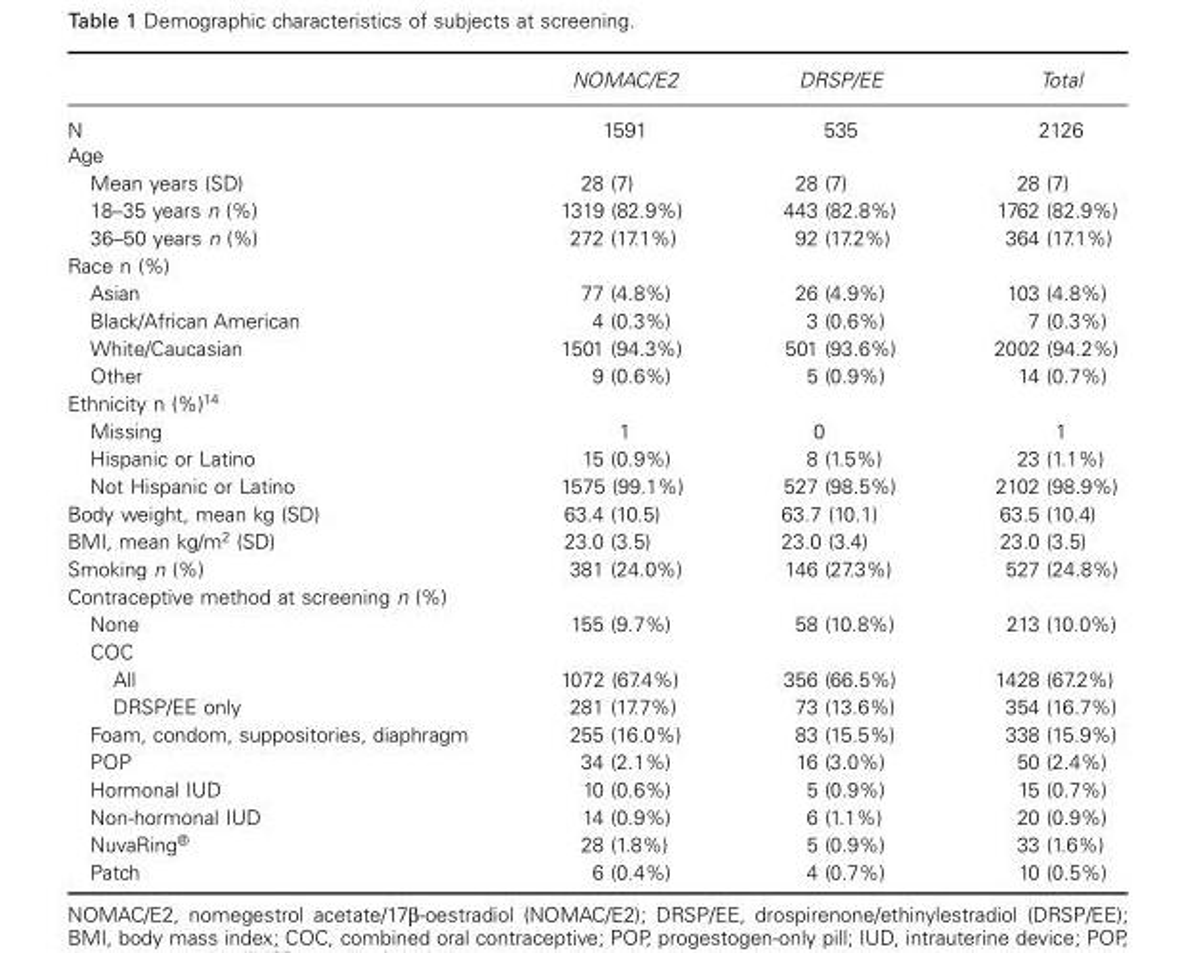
<table><thead><tr><td></td><td>NOMAC/E2</td><td>DRSP/EE</td><td>Total</td></tr></thead><tbody><tr><td>N</td><td>1591</td><td>535</td><td>2126</td></tr><tr><td colspan="4">Age</td></tr><tr><td>Mean years (SD)</td><td>28 (7)</td><td>28 (7)</td><td>28 (7)</td></tr><tr><td>18 – 35 years n (%)</td><td>1319 (82.9%)</td><td>443 (82.8%)</td><td>1762 (82.9%)</td></tr><tr><td>36 – 50 years n (%)</td><td>272 (17.1%)</td><td>92 (17.2%)</td><td>364 (17.1%)</td></tr><tr><td colspan="4">Race n (%)</td></tr><tr><td>Asian</td><td>77 (4.8%)</td><td>26 (4.9%)</td><td>103 (4.8%)</td></tr><tr><td>Black/African American</td><td>4 (0.3%)</td><td>3 (0.6%)</td><td>7 (0.3%)</td></tr><tr><td>White/Caucasian</td><td>1501 (94.3%)</td><td>501 (93.6%)</td><td>2002 (94.2%)</td></tr><tr><td>Other</td><td>9 (0.6%)</td><td>5 (0.9%)</td><td>14 (0.7%)</td></tr><tr><td colspan="4">Ethnicity n (%)<sup>14</sup></td></tr><tr><td>Missing</td><td>1</td><td>0</td><td>1</td></tr><tr><td>Hispanic or Latino</td><td>15 (0.9%)</td><td>8 (1.5%)</td><td>23 (1.1%)</td></tr><tr><td>Not Hispanic or Latino</td><td>1575 (99.1%)</td><td>527 (98.5%)</td><td>2102 (98.9%)</td></tr><tr><td>Body weight, mean kg (SD)</td><td>63.4 (10.5)</td><td>63.7 (10.1)</td><td>63.5 (10.4)</td></tr><tr><td>BMI, mean kg/m <sup>2</sup> (SD)</td><td>23.0 (3.5)</td><td>23.0 (3.4)</td><td>23.0 (3.5)</td></tr><tr><td>Smoking n (%)</td><td>381 (24.0%)</td><td>146 (27.3%)</td><td>527 (24.8%)</td></tr><tr><td colspan="4">Contraceptive method at screening n (%)</td></tr><tr><td>None</td><td>155 (9.7%)</td><td>58 (10.8%)</td><td>213 (10.0%)</td></tr><tr><td colspan="4">COC</td></tr><tr><td>All</td><td>1072 (67.4%)</td><td>356 (66.5%)</td><td>1428 (67.2%)</td></tr><tr><td>DRSP/EE only</td><td>281 (17.7%)</td><td>73 (13.6%)</td><td>354 (16.7%)</td></tr><tr><td>Foam, condom, suppositories, diaphragm</td><td>255 (16.0%)</td><td>83 (15.5%)</td><td>338 (15.9%)</td></tr><tr><td>POP</td><td>34 (2.1%)</td><td>16 (3.0%)</td><td>50 (2.4%)</td></tr><tr><td>Hormonal IUD</td><td>10 (0.6%)</td><td>5 (0.9%)</td><td>15 (0.7%)</td></tr><tr><td>Non-hormonal IUD</td><td>14 (0.9%)</td><td>6 (1.1%)</td><td>20 (0.9%)</td></tr><tr><td>NuvaRing ®</td><td>28 (1.8%)</td><td>5 (0.9%)</td><td>33 (1.6%)</td></tr><tr><td>Patch</td><td>6 (0.4%)</td><td>4 (0.7%)</td><td>10 (0.5%)</td></tr></tbody></table>